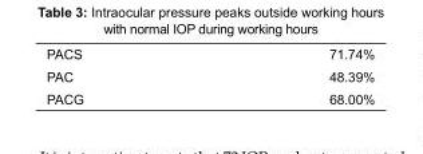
<table><tbody><tr><td>PACS</td><td>71.74%</td></tr><tr><td>PAC</td><td>48.39%</td></tr><tr><td>PACG</td><td>68.00%</td></tr></tbody></table>